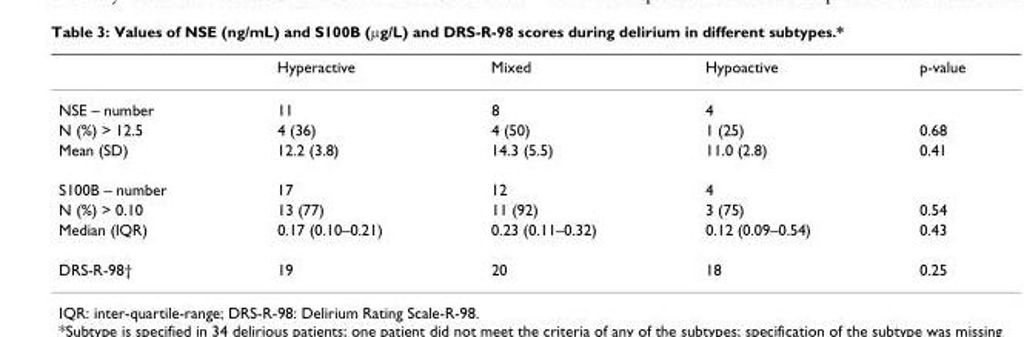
<table><thead><tr><td></td><td>Hyperactive</td><td>Mixed</td><td>Hypoactive</td><td>p-value</td></tr></thead><tbody><tr><td>NSE – number</td><td>11</td><td>8</td><td>4</td><td></td></tr><tr><td>N (%) &gt; 12.5</td><td>4 (36)</td><td>4 (50)</td><td>1 (25)</td><td>0.68</td></tr><tr><td>Mean (SD)</td><td>12.2 (3.8)</td><td>14.3 (5.5)</td><td>11.0 (2.8)</td><td>0.41</td></tr><tr><td>S100B – number</td><td>17</td><td>12</td><td>4</td><td></td></tr><tr><td>N (%) &gt; 0.10</td><td>13 (77)</td><td>11 (92)</td><td>3 (75)</td><td>0.54</td></tr><tr><td>Median (IQR)</td><td>0.17 (0.10–0.21)</td><td>0.23 (0.11–0.32)</td><td>0.12 (0.09–0.54)</td><td>0.43</td></tr><tr><td>DRS-R-98†</td><td>19</td><td>20</td><td>18</td><td>0.25</td></tr></tbody></table>